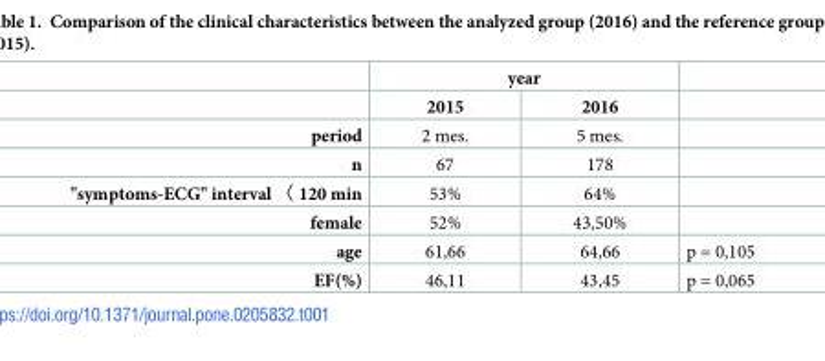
<table><thead><tr><td rowspan="2"></td><td colspan="2">year</td><td rowspan="2"></td></tr><tr><td>2015</td><td>2016</td></tr></thead><tbody><tr><td>period</td><td>2 mes.</td><td>5 mes.</td><td></td></tr><tr><td>n</td><td>67</td><td>178</td><td></td></tr><tr><td>&quot;symptoms-ECG&quot; interval 〈 120 min</td><td>53%</td><td>64%</td><td></td></tr><tr><td>female</td><td>52%</td><td>43,50%</td><td></td></tr><tr><td>age</td><td>61,66</td><td>64,66</td><td>p = 0,105</td></tr><tr><td>EF(%)</td><td>46,11</td><td>43,45</td><td>p = 0,065</td></tr></tbody></table>